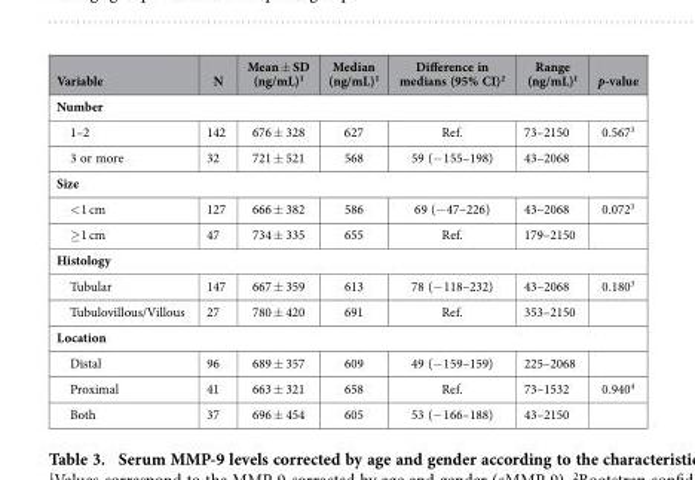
<table><thead><tr><td>Variable</td><td>N</td><td>Mean ± SD (ng/mL)<sup>1</sup></td><td>Median (ng/mL)<sup>1</sup></td><td>Difference in medians (95% CI)<sup>2</sup></td><td>Range (ng/mL)<sup>1</sup></td><td>p-value</td></tr></thead><tbody><tr><td colspan="7">Number</td></tr><tr><td>1–2</td><td>142</td><td>676 ± 328</td><td>627</td><td>Ref.</td><td>73–2150</td><td>0.567<sup>3</sup></td></tr><tr><td>3 or more</td><td>32</td><td>721 ± 521</td><td>568</td><td>59 (− 155–198)</td><td>43–2068</td><td></td></tr><tr><td colspan="7">Size</td></tr><tr><td>&lt; 1 cm</td><td>127</td><td>666 ± 382</td><td>586</td><td>69 (− 47–226)</td><td>43–2068</td><td>0.072<sup>3</sup></td></tr><tr><td>≥ 1 cm</td><td>47</td><td>734 ± 335</td><td>655</td><td>Ref.</td><td>179–2150</td><td></td></tr><tr><td colspan="7">Histology</td></tr><tr><td>Tubular</td><td>147</td><td>667 ± 359</td><td>613</td><td>78 (− 118–232)</td><td>43–2068</td><td>0.180<sup>3</sup></td></tr><tr><td>Tubulovillous/Villous</td><td>27</td><td>780 ± 420</td><td>691</td><td>Ref.</td><td>353–2150</td><td></td></tr><tr><td colspan="7">Location</td></tr><tr><td>Distal</td><td>96</td><td>689 ± 357</td><td>609</td><td>49 (− 159–159)</td><td>225–2068</td><td></td></tr><tr><td>Proximal</td><td>41</td><td>663 ± 321</td><td>658</td><td>Ref.</td><td>73–1532</td><td>0.940<sup>4</sup></td></tr><tr><td>Both</td><td>37</td><td>696 ± 454</td><td>605</td><td>53 (− 166–188)</td><td>43–2150</td><td></td></tr></tbody></table>